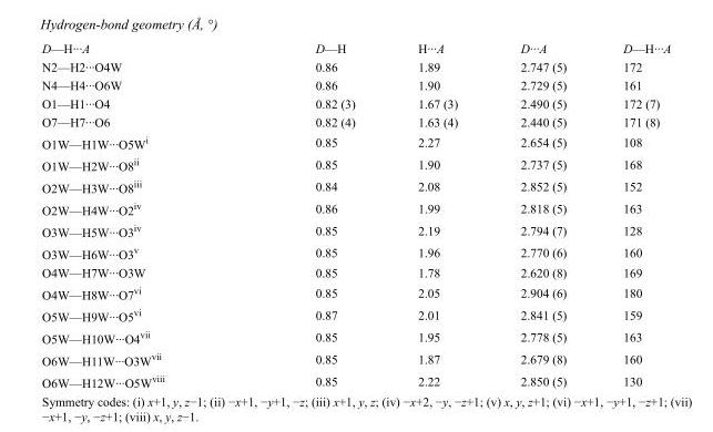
<table><tbody><tr><td>D—H···A</td><td>D—H</td><td>H···A</td><td>D···A</td><td>D—H···A</td></tr><tr><td>N2—H2···O4W</td><td>0.86</td><td>1.89</td><td>2.747 (5)</td><td>172</td></tr><tr><td>N4—H4···O6W</td><td>0.86</td><td>1.90</td><td>2.729 (5)</td><td>161</td></tr><tr><td>O1—H1···O4</td><td>0.82 (3)</td><td>1.67 (3)</td><td>2.490 (5)</td><td>172 (7)</td></tr><tr><td>O7—H7···O6</td><td>0.82 (4)</td><td>1.63 (4)</td><td>2.440 (5)</td><td>171 (8)</td></tr><tr><td>O1W—H1W···O5W<sup>i</sup></td><td>0.85</td><td>2.27</td><td>2.654 (5)</td><td>108</td></tr><tr><td>O1W—H2W···O8<sup>ii</sup></td><td>0.85</td><td>1.90</td><td>2.737 (5)</td><td>168</td></tr><tr><td>O2W—H3W···O8<sup>iii</sup></td><td>0.84</td><td>2.08</td><td>2.852 (5)</td><td>152</td></tr><tr><td>O2W—H4W···O2<sup>iv</sup></td><td>0.86</td><td>1.99</td><td>2.818 (5)</td><td>163</td></tr><tr><td>O3W—H5W···O3<sup>iv</sup></td><td>0.85</td><td>2.19</td><td>2.794 (7)</td><td>128</td></tr><tr><td>O3W—H6W···O3<sup>v</sup></td><td>0.85</td><td>1.96</td><td>2.770 (6)</td><td>160</td></tr><tr><td>O4W—H7W···O3W</td><td>0.85</td><td>1.78</td><td>2.620 (8)</td><td>169</td></tr><tr><td>O4W—H8W···O7<sup>vi</sup></td><td>0.85</td><td>2.05</td><td>2.904 (6)</td><td>180</td></tr><tr><td>O5W—H9W···O5<sup>vi</sup></td><td>0.87</td><td>2.01</td><td>2.841 (5)</td><td>159</td></tr><tr><td>O5W—H10W···O4<sup>vii</sup></td><td>0.85</td><td>1.95</td><td>2.778 (5)</td><td>163</td></tr><tr><td>O6W—H11W···O3W<sup>vii</sup></td><td>0.85</td><td>1.87</td><td>2.679 (8)</td><td>160</td></tr><tr><td>O6W—H12W···O5W<sup>viii</sup></td><td>0.85</td><td>2.22</td><td>2.850 (5)</td><td>130</td></tr></tbody></table>